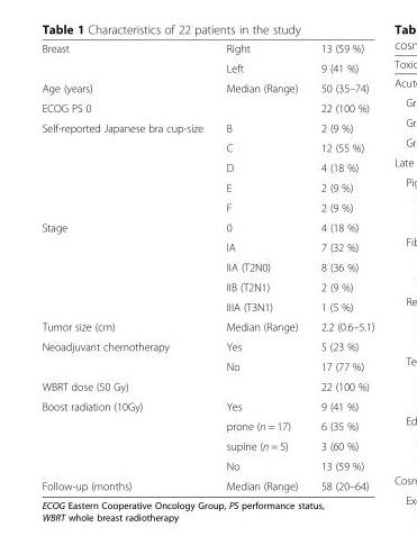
<table><tbody><tr><td rowspan="2">Breast</td><td>Right</td><td>13 (59 %)</td></tr><tr><td>Left</td><td>9 (41 %)</td></tr><tr><td>Age (years)</td><td>Median (Range)</td><td>50 (35–74)</td></tr><tr><td>ECOG PS 0</td><td></td><td>22 (100 %)</td></tr><tr><td rowspan="5">Self-reported Japanese bra cup-size</td><td>B</td><td>2 (9 %)</td></tr><tr><td>C</td><td>12 (55 %)</td></tr><tr><td>D</td><td>4 (18 %)</td></tr><tr><td>E</td><td>2 (9 %)</td></tr><tr><td>F</td><td>2 (9 %)</td></tr><tr><td rowspan="5">Stage</td><td>0</td><td>4 (18 %)</td></tr><tr><td>IA</td><td>7 (32 %)</td></tr><tr><td>IIA (T2N0)</td><td>8 (36 %)</td></tr><tr><td>IIB (T2N1)</td><td>2 (9 %)</td></tr><tr><td>IIIA (T3N1)</td><td>1 (5 %)</td></tr><tr><td>Tumor size (cm)</td><td>Median (Range)</td><td>2.2 (0.6–5.1)</td></tr><tr><td rowspan="2">Neoadjuvant chemotherapy</td><td>Yes</td><td>5 (23 %)</td></tr><tr><td>No</td><td>17 (77 %)</td></tr><tr><td>WBRT dose (50 Gy)</td><td></td><td>22 (100 %)</td></tr><tr><td rowspan="4">Boost radiation (10Gy)</td><td>Yes</td><td>9 (41 %)</td></tr><tr><td>prone (n = 17)</td><td>6 (35 %)</td></tr><tr><td>supine (n = 5)</td><td>3 (60 %)</td></tr><tr><td>No</td><td>13 (59 %)</td></tr><tr><td>Follow-up (months)</td><td>Median (Range)</td><td>58 (20–64)</td></tr></tbody></table>